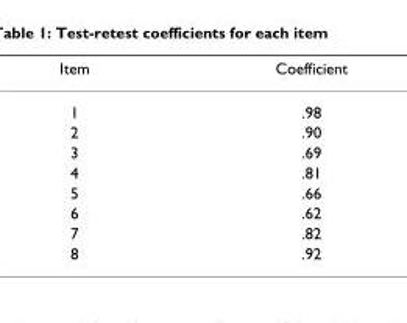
<table><thead><tr><td>Item</td><td>Coefficient</td></tr></thead><tbody><tr><td>1</td><td>.98</td></tr><tr><td>2</td><td>.90</td></tr><tr><td>3</td><td>.69</td></tr><tr><td>4</td><td>.81</td></tr><tr><td>5</td><td>.66</td></tr><tr><td>6</td><td>.62</td></tr><tr><td>7</td><td>.82</td></tr><tr><td>8</td><td>.92</td></tr></tbody></table>